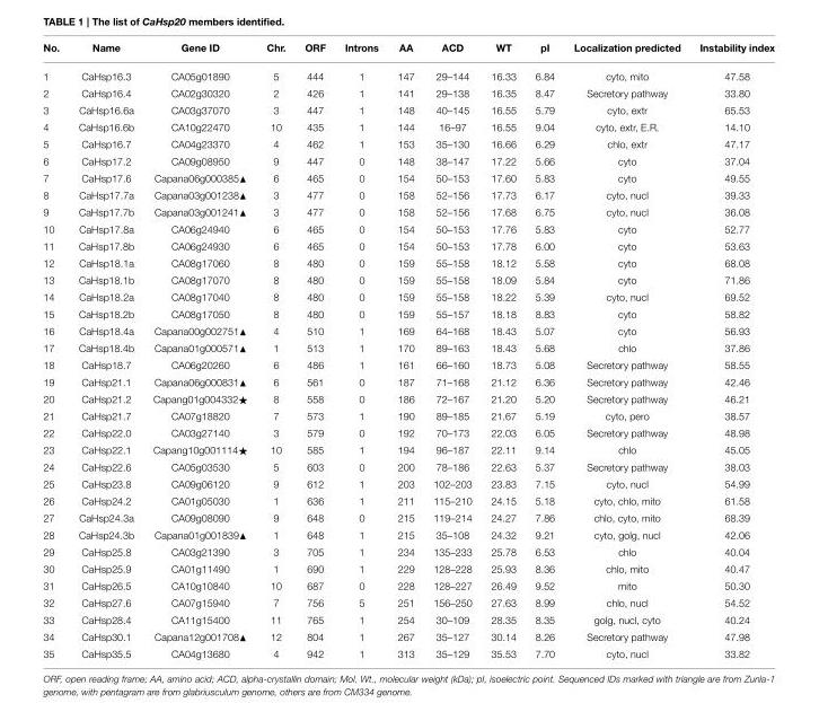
<table><thead><tr><td>No.</td><td>Name</td><td>Gene ID</td><td>Chr.</td><td>ORF</td><td>Introns</td><td>AA</td><td>ACD</td><td>WT</td><td>pI</td><td>Localization predicted</td><td>Instability index</td></tr></thead><tbody><tr><td>1</td><td>CaHsp16.3</td><td>CA05g01890</td><td>5</td><td>444</td><td>1</td><td>147</td><td>29–144</td><td>16.33</td><td>6.84</td><td>cyto, mito</td><td>47.58</td></tr><tr><td>2</td><td>CaHsp16.4</td><td>CA02g30320</td><td>2</td><td>426</td><td>1</td><td>141</td><td>29–138</td><td>16.35</td><td>8.47</td><td>Secretory pathway</td><td>33.80</td></tr><tr><td>3</td><td>CaHsp16.6a</td><td>CA03g37070</td><td>3</td><td>447</td><td>1</td><td>148</td><td>40–145</td><td>16.55</td><td>5.79</td><td>cyto, extr</td><td>65.53</td></tr><tr><td>4</td><td>CaHsp16.6b</td><td>CA10g22470</td><td>10</td><td>435</td><td>1</td><td>144</td><td>16–97</td><td>16.55</td><td>9.04</td><td>cyto, extr, E.R.</td><td>14.10</td></tr><tr><td>5</td><td>CaHsp16.7</td><td>CA04g23370</td><td>4</td><td>462</td><td>1</td><td>153</td><td>35–130</td><td>16.66</td><td>6.29</td><td>chlo, extr</td><td>47.17</td></tr><tr><td>6</td><td>CaHsp17.2</td><td>CA09g08950</td><td>9</td><td>447</td><td>0</td><td>148</td><td>38–147</td><td>17.22</td><td>5.66</td><td>cyto</td><td>37.04</td></tr><tr><td>7</td><td>CaHsp17.6</td><td>Capana06g000385▲</td><td>6</td><td>465</td><td>0</td><td>154</td><td>50–153</td><td>17.60</td><td>5.83</td><td>cyto</td><td>49.55</td></tr><tr><td>8</td><td>CaHsp17.7a</td><td>Capana03g001238▲</td><td>3</td><td>477</td><td>0</td><td>158</td><td>52–156</td><td>17.73</td><td>6.17</td><td>cyto, nucl</td><td>39.33</td></tr><tr><td>9</td><td>CaHsp17.7b</td><td>Capana03g001241▲</td><td>3</td><td>477</td><td>0</td><td>158</td><td>52–156</td><td>17.68</td><td>6.75</td><td>cyto, nucl</td><td>36.08</td></tr><tr><td>10</td><td>CaHsp17.8a</td><td>CA06g24940</td><td>6</td><td>465</td><td>0</td><td>154</td><td>50–153</td><td>17.76</td><td>5.83</td><td>cyto</td><td>52.77</td></tr><tr><td>11</td><td>CaHsp17.8b</td><td>CA06g24930</td><td>6</td><td>465</td><td>0</td><td>154</td><td>50–153</td><td>17.78</td><td>6.00</td><td>cyto</td><td>53.63</td></tr><tr><td>12</td><td>CaHsp18.1a</td><td>CA08g17060</td><td>8</td><td>480</td><td>0</td><td>159</td><td>55–158</td><td>18.12</td><td>5.58</td><td>cyto</td><td>68.08</td></tr><tr><td>13</td><td>CaHsp18.1b</td><td>CA08g17070</td><td>8</td><td>480</td><td>0</td><td>159</td><td>55–158</td><td>18.09</td><td>5.84</td><td>cyto</td><td>71.86</td></tr><tr><td>14</td><td>CaHsp18.2a</td><td>CA08g17040</td><td>8</td><td>480</td><td>0</td><td>159</td><td>55–158</td><td>18.22</td><td>5.39</td><td>cyto, nucl</td><td>69.52</td></tr><tr><td>15</td><td>CaHsp18.2b</td><td>CA08g17050</td><td>8</td><td>480</td><td>0</td><td>159</td><td>55–157</td><td>18.18</td><td>8.83</td><td>cyto</td><td>58.82</td></tr><tr><td>16</td><td>CaHsp18.4a</td><td>Capana00g002751▲</td><td>4</td><td>510</td><td>1</td><td>169</td><td>64–168</td><td>18.43</td><td>5.07</td><td>cyto</td><td>56.93</td></tr><tr><td>17</td><td>CaHsp18.4b</td><td>Capana01g000571▲</td><td>1</td><td>513</td><td>1</td><td>170</td><td>89–163</td><td>18.43</td><td>5.68</td><td>chlo</td><td>37.86</td></tr><tr><td>18</td><td>CaHsp18.7</td><td>CA06g20260</td><td>6</td><td>486</td><td>1</td><td>161</td><td>66–160</td><td>18.73</td><td>5.08</td><td>Secretory pathway</td><td>58.55</td></tr><tr><td>19</td><td>CaHsp21.1</td><td>Capana06g000831▲</td><td>6</td><td>561</td><td>0</td><td>187</td><td>71–168</td><td>21.12</td><td>6.36</td><td>Secretory pathway</td><td>42.46</td></tr><tr><td>20</td><td>CaHsp21.2</td><td>Capang01g004332⋆</td><td>8</td><td>558</td><td>0</td><td>186</td><td>72–167</td><td>21.20</td><td>5.20</td><td>Secretory pathway</td><td>46.21</td></tr><tr><td>21</td><td>CaHsp21.7</td><td>CA07g18820</td><td>7</td><td>573</td><td>1</td><td>190</td><td>89–185</td><td>21.67</td><td>5.19</td><td>cyto, pero</td><td>38.57</td></tr><tr><td>22</td><td>CaHsp22.0</td><td>CA03g27140</td><td>3</td><td>579</td><td>0</td><td>192</td><td>70–173</td><td>22.03</td><td>6.05</td><td>Secretory pathway</td><td>48.98</td></tr><tr><td>23</td><td>CaHsp22.1</td><td>Capang10g001114⋆</td><td>10</td><td>585</td><td>1</td><td>194</td><td>96–187</td><td>22.11</td><td>9.14</td><td>chlo</td><td>45.05</td></tr><tr><td>24</td><td>CaHsp22.6</td><td>CA05g03530</td><td>5</td><td>603</td><td>0</td><td>200</td><td>78–186</td><td>22.63</td><td>5.37</td><td>Secretory pathway</td><td>38.03</td></tr><tr><td>25</td><td>CaHsp23.8</td><td>CA09g06120</td><td>9</td><td>612</td><td>1</td><td>203</td><td>102–203</td><td>23.83</td><td>7.15</td><td>cyto, nucl</td><td>54.99</td></tr><tr><td>26</td><td>CaHsp24.2</td><td>CA01g05030</td><td>1</td><td>636</td><td>1</td><td>211</td><td>115–210</td><td>24.15</td><td>5.18</td><td>cyto, chlo, mito</td><td>61.58</td></tr><tr><td>27</td><td>CaHsp24.3a</td><td>CA09g08090</td><td>9</td><td>648</td><td>0</td><td>215</td><td>119–214</td><td>24.27</td><td>7.86</td><td>chlo, cyto, mito</td><td>68.39</td></tr><tr><td>28</td><td>CaHsp24.3b</td><td>Capana01g001839▲</td><td>1</td><td>648</td><td>1</td><td>215</td><td>35–108</td><td>24.32</td><td>9.21</td><td>cyto, golg, nucl</td><td>42.06</td></tr><tr><td>29</td><td>CaHsp25.8</td><td>CA03g21390</td><td>3</td><td>705</td><td>1</td><td>234</td><td>135–233</td><td>25.78</td><td>6.53</td><td>chlo</td><td>40.04</td></tr><tr><td>30</td><td>CaHsp25.9</td><td>CA01g11490</td><td>1</td><td>690</td><td>1</td><td>229</td><td>128–228</td><td>25.93</td><td>8.36</td><td>chlo, mito</td><td>40.47</td></tr><tr><td>31</td><td>CaHsp26.5</td><td>CA10g10840</td><td>10</td><td>687</td><td>0</td><td>228</td><td>128–227</td><td>26.49</td><td>9.52</td><td>mito</td><td>50.30</td></tr><tr><td>32</td><td>CaHsp27.6</td><td>CA07g15940</td><td>7</td><td>756</td><td>5</td><td>251</td><td>156–250</td><td>27.63</td><td>8.99</td><td>chlo, nucl</td><td>54.52</td></tr><tr><td>33</td><td>CaHsp28.4</td><td>CA11g15400</td><td>11</td><td>765</td><td>1</td><td>254</td><td>30–109</td><td>28.35</td><td>8.35</td><td>golg, nucl, cyto</td><td>40.24</td></tr><tr><td>34</td><td>CaHsp30.1</td><td>Capana12g001708▲</td><td>12</td><td>804</td><td>1</td><td>267</td><td>35–127</td><td>30.14</td><td>8.26</td><td>Secretory pathway</td><td>47.98</td></tr><tr><td>35</td><td>CaHsp35.5</td><td>CA04g13680</td><td>4</td><td>942</td><td>1</td><td>313</td><td>35–129</td><td>35.53</td><td>7.70</td><td>cyto, nucl</td><td>33.82</td></tr></tbody></table>